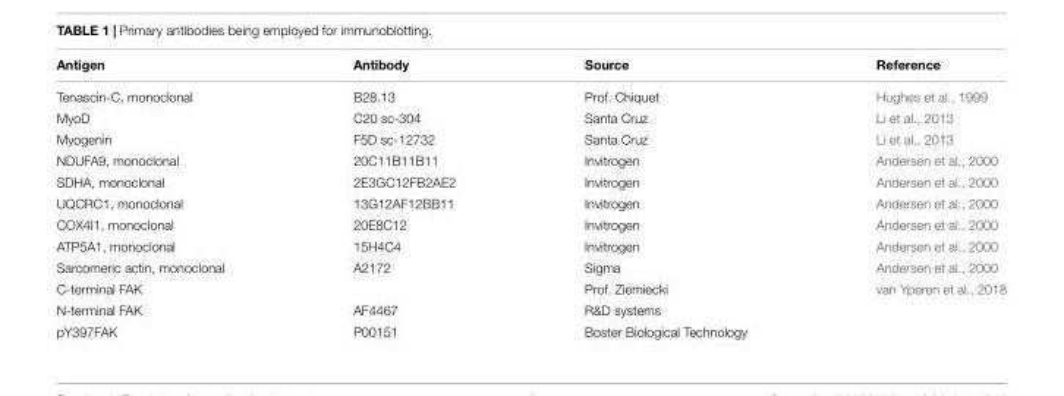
<table><thead><tr><td>Antigen</td><td>Antibody</td><td>Source</td><td>Reference</td></tr></thead><tbody><tr><td>Tenascin-C, monoclonal</td><td>B28.13</td><td>Prof. Chiquet</td><td>Hughes et al., 1999</td></tr><tr><td>MyoD</td><td>C20 sc-304</td><td>Santa Cruz</td><td>Li et al., 2013</td></tr><tr><td>Myogenin</td><td>F5D sc-12732</td><td>Santa Cruz</td><td>Li et al., 2013</td></tr><tr><td>NDUFA9, monoclonal</td><td>20C11B11B11</td><td>Invitrogen</td><td>Andersen et al., 2000</td></tr><tr><td>SDHA, monoclonal</td><td>2E3GC12FB2AE2</td><td>Invitrogen</td><td>Andersen et al., 2000</td></tr><tr><td>UQCRC1, monoclonal</td><td>13G12AF12BB11</td><td>Invitrogen</td><td>Andersen et al., 2000</td></tr><tr><td>COX4I1, monoclonal</td><td>20E8C12</td><td>Invitrogen</td><td>Andersen et al., 2000</td></tr><tr><td>ATP5A1, monoclonal</td><td>15H4C4</td><td>Invitrogen</td><td>Andersen et al., 2000</td></tr><tr><td>Sarcomeric actin, monoclonal</td><td>A2172</td><td>Sigma</td><td>Andersen et al., 2000</td></tr><tr><td>C-terminal FAK</td><td></td><td>Prof. Ziemiecki</td><td>van Yperen et al., 2018</td></tr><tr><td>N-terminal FAK</td><td>AF4467</td><td>R&amp;D systems</td><td></td></tr><tr><td>pY397FAK</td><td>P00151</td><td>Boster Biological Technology</td><td></td></tr></tbody></table>